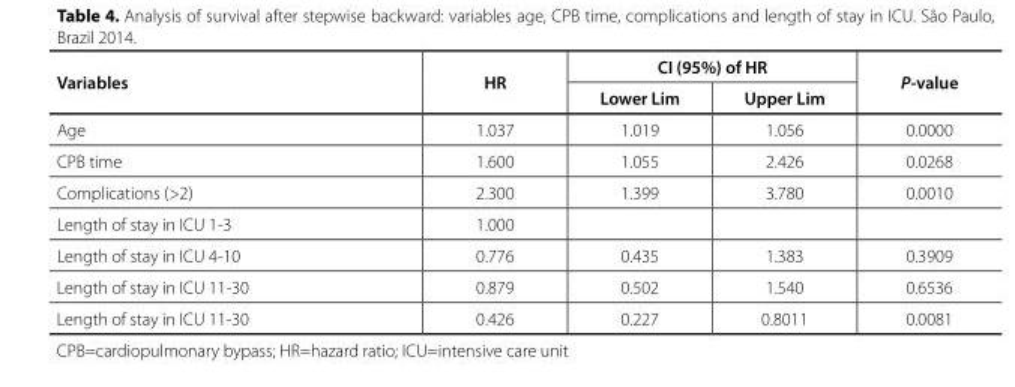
<table><thead><tr><td rowspan="2">Variables</td><td rowspan="2">HR</td><td colspan="2">CI (95%) of HR</td><td rowspan="2">P-value</td></tr><tr><td>Lower Lim</td><td>Upper Lim</td></tr></thead><tbody><tr><td>Age</td><td>1.037</td><td>1.019</td><td>1.056</td><td>0.0000</td></tr><tr><td>CPB time</td><td>1.600</td><td>1.055</td><td>2.426</td><td>0.0268</td></tr><tr><td>Complications (&gt;2)</td><td>2.300</td><td>1.399</td><td>3.780</td><td>0.0010</td></tr><tr><td>Length of stay in ICU 1-3</td><td>1.000</td><td></td><td></td><td></td></tr><tr><td>Length of stay in ICU 4-10</td><td>0.776</td><td>0.435</td><td>1.383</td><td>0.3909</td></tr><tr><td>Length of stay in ICU 11-30</td><td>0.879</td><td>0.502</td><td>1.540</td><td>0.6536</td></tr><tr><td>Length of stay in ICU 11-30</td><td>0.426</td><td>0.227</td><td>0.8011</td><td>0.0081</td></tr></tbody></table>